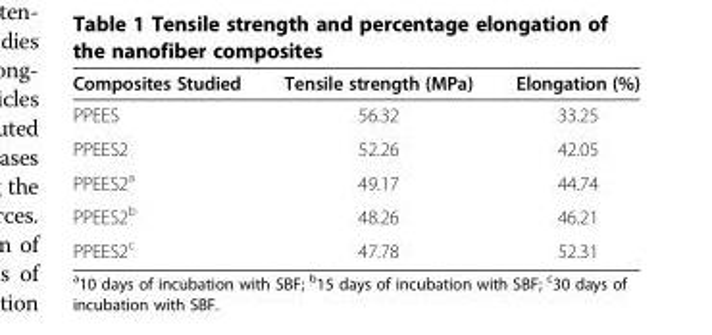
<table><thead><tr><td>Composites Studied</td><td>Tensile strength (MPa)</td><td>Elongation (%)</td></tr></thead><tbody><tr><td>PPEES</td><td>56.32</td><td>33.25</td></tr><tr><td>PPEES2</td><td>52.26</td><td>42.05</td></tr><tr><td>PPEES2<sup>a</sup></td><td>49.17</td><td>44.74</td></tr><tr><td>PPEES2<sup>b</sup></td><td>48.26</td><td>46.21</td></tr><tr><td>PPEES2<sup>c</sup></td><td>47.78</td><td>52.31</td></tr></tbody></table>